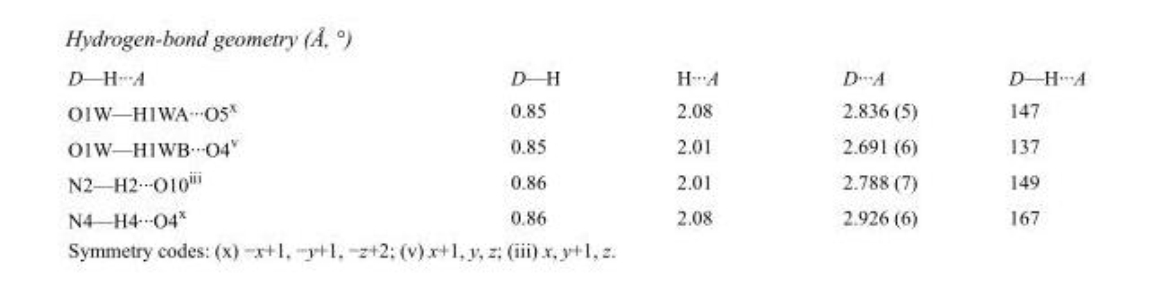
<table><tbody><tr><td>D—H···A</td><td>D—H</td><td>H···A</td><td>D···A</td><td>D—H···A</td></tr><tr><td>O1W—H1WA···O5<sup>x</sup></td><td>0.85</td><td>2.08</td><td>2.836 (5)</td><td>147</td></tr><tr><td>O1W—H1WB···O4<sup>v</sup></td><td>0.85</td><td>2.01</td><td>2.691 (6)</td><td>137</td></tr><tr><td>N2—H2···O10<sup>iii</sup></td><td>0.86</td><td>2.01</td><td>2.788 (7)</td><td>149</td></tr><tr><td>N4—H4···O4<sup>x</sup></td><td>0.86</td><td>2.08</td><td>2.926 (6)</td><td>167</td></tr></tbody></table>